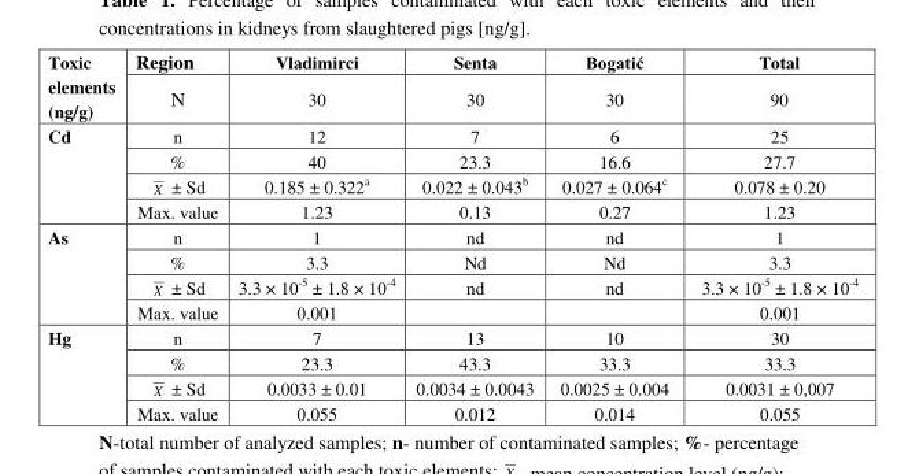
<table><thead><tr><td rowspan="2">Toxic elements (ng/g)</td><td rowspan="2">Region N</td><td rowspan="2">Vladimirci 30</td><td rowspan="2">Senta 30</td><td rowspan="2">Bogatić 30</td><td rowspan="2">Total 90</td></tr><tr></tr></thead><tbody><tr><td rowspan="4">Cd</td><td>n</td><td>12</td><td>7</td><td>6</td><td>25</td></tr><tr><td>%</td><td>40</td><td>23.3</td><td>16.6</td><td>27.7</td></tr><tr><td>X ± Sd</td><td>0.185 ± 0.322<sup>a</sup></td><td>0.022 ± 0.043<sup>b</sup></td><td>0.027 ± 0.064<sup>c</sup></td><td>0.078 ± 0.20</td></tr><tr><td>Max. value</td><td>1.23</td><td>0.13</td><td>0.27</td><td>1.23</td></tr><tr><td rowspan="4">As</td><td>n</td><td>1</td><td>nd</td><td>nd</td><td>1</td></tr><tr><td>%</td><td>3.3</td><td>Nd</td><td>Nd</td><td>3.3</td></tr><tr><td>X ± Sd</td><td>3.3 × 10<sup>-5</sup> ± 1.8 × 10<sup>-4</sup></td><td>nd</td><td>nd</td><td>3.3 × 10<sup>-5</sup> ± 1.8 × 10<sup>-4</sup></td></tr><tr><td>Max. value</td><td>0.001</td><td></td><td></td><td>0.001</td></tr><tr><td rowspan="4">Hg</td><td>n</td><td>7</td><td>13</td><td>10</td><td>30</td></tr><tr><td>%</td><td>23.3</td><td>43.3</td><td>33.3</td><td>33.3</td></tr><tr><td>X ± Sd</td><td>0.0033 ± 0.01</td><td>0.0034 ± 0.0043</td><td>0.0025 ± 0.004</td><td>0.0031 ± 0,007</td></tr><tr><td>Max. value</td><td>0.055</td><td>0.012</td><td>0.014</td><td>0.055</td></tr></tbody></table>